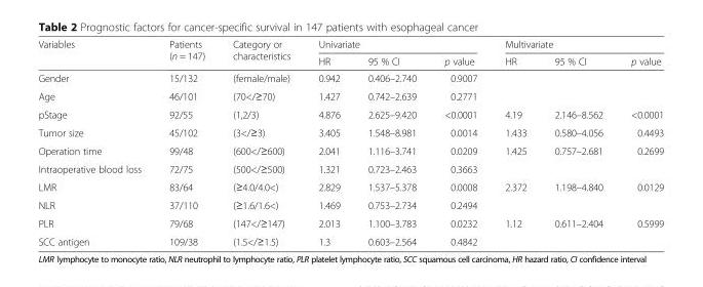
<table><thead><tr><td rowspan="2">Variables</td><td rowspan="2">Patients (n = 147)</td><td rowspan="2">Category or characteristics</td><td colspan="3">Univariate</td><td colspan="3">Multivariate</td></tr><tr><td>HR</td><td>95 % CI</td><td>p value</td><td>HR</td><td>95 % CI</td><td>p value</td></tr></thead><tbody><tr><td>Gender</td><td>15/132</td><td>(female/male)</td><td>0.942</td><td>0.406–2.740</td><td>0.9007</td><td></td><td></td><td></td></tr><tr><td>Age</td><td>46/101</td><td>(70&lt;/≥70)</td><td>1.427</td><td>0.742–2.639</td><td>0.2771</td><td></td><td></td><td></td></tr><tr><td>pStage</td><td>92/55</td><td>(1,2/3)</td><td>4.876</td><td>2.625–9.420</td><td>&lt;0.0001</td><td>4.19</td><td>2.146–8.562</td><td>&lt;0.0001</td></tr><tr><td>Tumor size</td><td>45/102</td><td>(3&lt;/≥3)</td><td>3.405</td><td>1.548–8.981</td><td>0.0014</td><td>1.433</td><td>0.580–4.056</td><td>0.4493</td></tr><tr><td>Operation time</td><td>99/48</td><td>(600&lt;/≥600)</td><td>2.041</td><td>1.116–3.741</td><td>0.0209</td><td>1.425</td><td>0.757–2.681</td><td>0.2699</td></tr><tr><td>Intraoperative blood loss</td><td>72/75</td><td>(500&lt;/≥500)</td><td>1.321</td><td>0.723–2.463</td><td>0.3663</td><td></td><td></td><td></td></tr><tr><td>LMR</td><td>83/64</td><td>(≥4.0/4.0&lt;)</td><td>2.829</td><td>1.537–5.378</td><td>0.0008</td><td>2.372</td><td>1.198–4.840</td><td>0.0129</td></tr><tr><td>NLR</td><td>37/110</td><td>(≥1.6/1.6&lt;)</td><td>1.469</td><td>0.753–2.734</td><td>0.2494</td><td></td><td></td><td></td></tr><tr><td>PLR</td><td>79/68</td><td>(147&lt;/≥147)</td><td>2.013</td><td>1.100–3.783</td><td>0.0232</td><td>1.12</td><td>0.611–2.404</td><td>0.5999</td></tr><tr><td>SCC antigen</td><td>109/38</td><td>(1.5&lt;/≥1.5)</td><td>1.3</td><td>0.603–2.564</td><td>0.4842</td><td></td><td></td><td></td></tr></tbody></table>